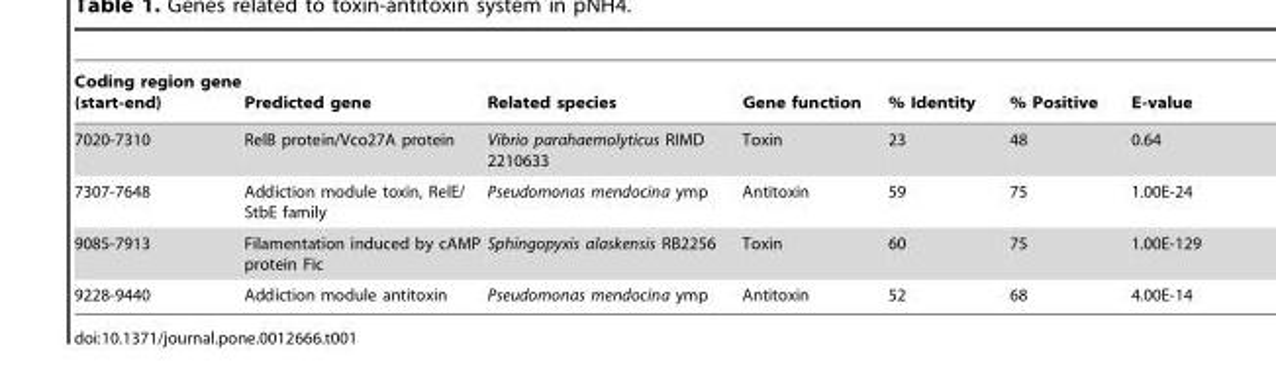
<table><thead><tr><td>Coding region gene (start-end)</td><td>Predicted gene</td><td>Related species</td><td>Gene function</td><td>% Identity</td><td>% Positive</td><td>E-value</td></tr></thead><tbody><tr><td>7020-7310</td><td>RelB protein/Vco27A protein</td><td>Vibrio parahaemolyticus RIMD 2210633</td><td>Toxin</td><td>23</td><td>48</td><td>0.64</td></tr><tr><td>7307-7648</td><td>Addiction module toxin, RelE/ StbE family</td><td>Pseudomonas mendocina ymp</td><td>Antitoxin</td><td>59</td><td>75</td><td>1.00E-24</td></tr><tr><td>9085-7913</td><td>Filamentation induced by cAMP protein Fic</td><td>Sphingopyxis alaskensis RB2256</td><td>Toxin</td><td>60</td><td>75</td><td>1.00E-129</td></tr><tr><td>9228-9440</td><td>Addiction module antitoxin</td><td>Pseudomonas mendocina ymp</td><td>Antitoxin</td><td>52</td><td>68</td><td>4.00E-14</td></tr></tbody></table>